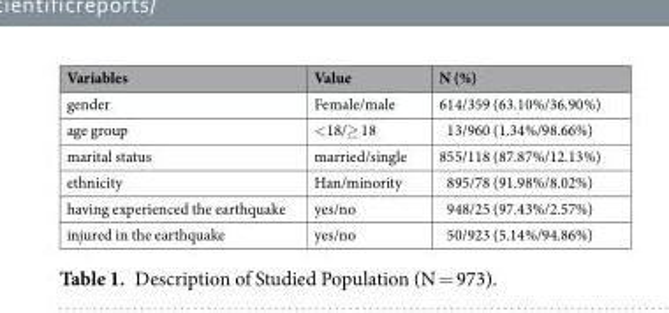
<table><thead><tr><td>Variables</td><td>Value</td><td>N (%)</td></tr></thead><tbody><tr><td>gender</td><td>Female/male</td><td>614/359 (63.10%/36.90%)</td></tr><tr><td>age group</td><td>&lt;18/≥ 18</td><td>13/960 (1.34%/98.66%)</td></tr><tr><td>marital status</td><td>married/single</td><td>855/118 (87.87%/12.13%)</td></tr><tr><td>ethnicity</td><td>Han/minority</td><td>895/78 (91.98%/8.02%)</td></tr><tr><td>having experienced the earthquake</td><td>yes/no</td><td>948/25 (97.43%/2.57%)</td></tr><tr><td>injured in the earthquake</td><td>yes/no</td><td>50/923 (5.14%/94.86%)</td></tr></tbody></table>